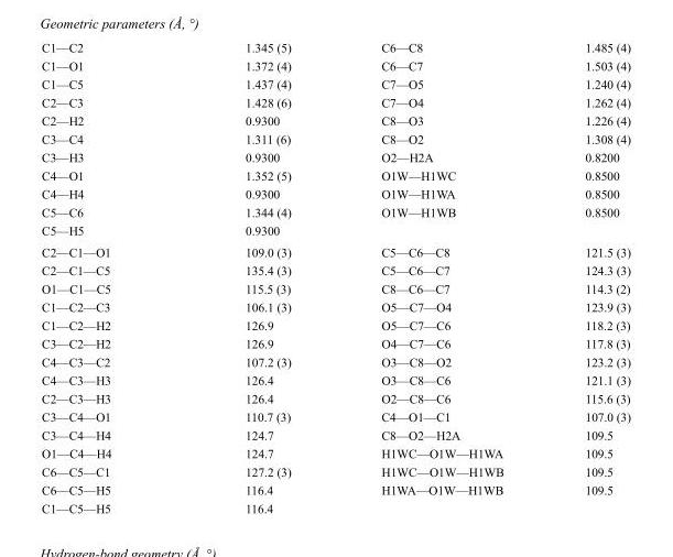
<table><tbody><tr><td>C1—C2</td><td>1.345 (5)</td><td>C6—C8</td><td>1.485 (4)</td></tr><tr><td>C1—O1</td><td>1.372 (4)</td><td>C6—C7</td><td>1.503 (4)</td></tr><tr><td>C1—C5</td><td>1.437 (4)</td><td>C7—O5</td><td>1.240 (4)</td></tr><tr><td>C2—C3</td><td>1.428 (6)</td><td>C7—O4</td><td>1.262 (4)</td></tr><tr><td>C2—H2</td><td>0.9300</td><td>C8—O3</td><td>1.226 (4)</td></tr><tr><td>C3—C4</td><td>1.311 (6)</td><td>C8—O2</td><td>1.308 (4)</td></tr><tr><td>C3—H3</td><td>0.9300</td><td>O2—H2A</td><td>0.8200</td></tr><tr><td>C4—O1</td><td>1.352 (5)</td><td>O1W—H1WC</td><td>0.8500</td></tr><tr><td>C4—H4</td><td>0.9300</td><td>O1W—H1WA</td><td>0.8500</td></tr><tr><td>C5—C6</td><td>1.344 (4)</td><td>O1W—H1WB</td><td>0.8500</td></tr><tr><td>C5—H5</td><td>0.9300</td><td></td><td></td></tr><tr><td>C2—C1—O1</td><td>109.0 (3)</td><td>C5—C6—C8</td><td>121.5 (3)</td></tr><tr><td>C2—C1—C5</td><td>135.4 (3)</td><td>C5—C6—C7</td><td>124.3 (3)</td></tr><tr><td>O1—C1—C5</td><td>115.5 (3)</td><td>C8—C6—C7</td><td>114.3 (2)</td></tr><tr><td>C1—C2—C3</td><td>106.1 (3)</td><td>O5—C7—O4</td><td>123.9 (3)</td></tr><tr><td>C1—C2—H2</td><td>126.9</td><td>O5—C7—C6</td><td>118.2 (3)</td></tr><tr><td>C3—C2—H2</td><td>126.9</td><td>O4—C7—C6</td><td>117.8 (3)</td></tr><tr><td>C4—C3—C2</td><td>107.2 (3)</td><td>O3—C8—O2</td><td>123.2 (3)</td></tr><tr><td>C4—C3—H3</td><td>126.4</td><td>O3—C8—C6</td><td>121.1 (3)</td></tr><tr><td>C2—C3—H3</td><td>126.4</td><td>O2—C8—C6</td><td>115.6 (3)</td></tr><tr><td>C3—C4—O1</td><td>110.7 (3)</td><td>C4—O1—C1</td><td>107.0 (3)</td></tr><tr><td>C3—C4—H4</td><td>124.7</td><td>C8—O2—H2A</td><td>109.5</td></tr><tr><td>O1—C4—H4</td><td>124.7</td><td>H1WC—O1W—H1WA</td><td>109.5</td></tr><tr><td>C6—C5—C1</td><td>127.2 (3)</td><td>H1WC—O1W—H1WB</td><td>109.5</td></tr><tr><td>C6—C5—H5</td><td>116.4</td><td>H1WA—O1W—H1WB</td><td>109.5</td></tr><tr><td>C1—C5—H5</td><td>116.4</td><td></td><td></td></tr></tbody></table>